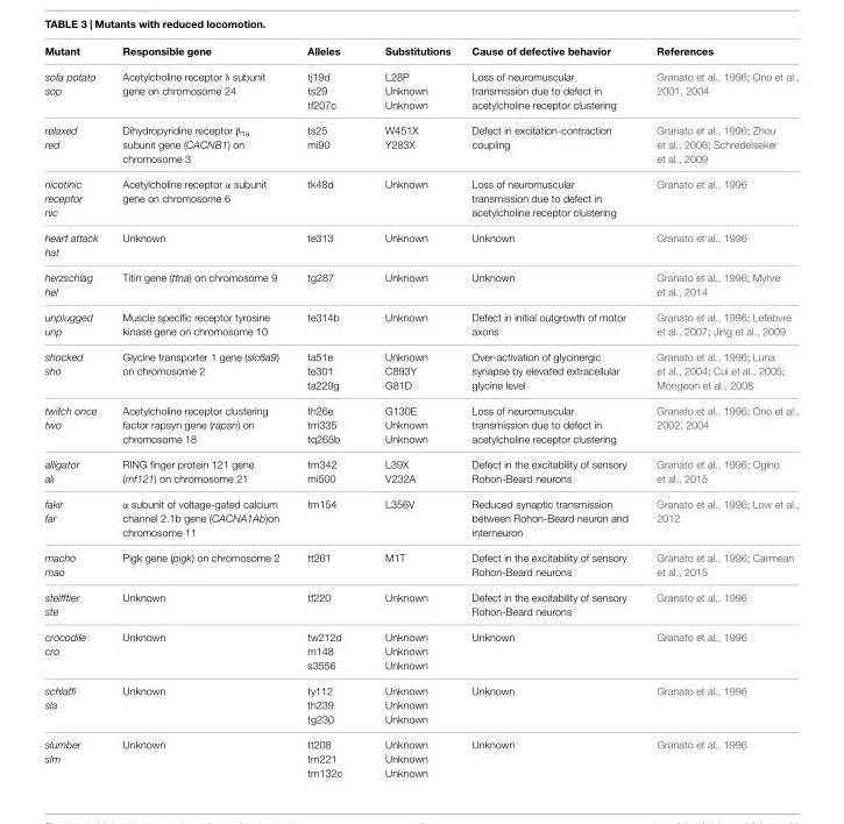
<table><thead><tr><td>Mutant</td><td>Responsible gene</td><td>Alleles</td><td>Substitutions</td><td>Cause of defective behavior</td><td>References</td></tr></thead><tbody><tr><td>sofa potato sop</td><td>Acetylcholine receptor δ subunit gene on chromosome 24</td><td>tj19d ts29 tf207c</td><td>L28P Unknown Unknown</td><td>Loss of neuromuscular transmission due to defect in acetylcholine receptor clustering</td><td>Granato et al., 1996; Ono et al., 2001, 2004</td></tr><tr><td>relaxed red</td><td>Dihydropyridine receptor β<sub>1a</sub> subunit gene (CACNB1) on chromosome 3</td><td>ts25 mi90</td><td>W451X Y283X</td><td>Defect in excitation-contraction coupling</td><td>Granato et al., 1996; Zhou et al., 2006; Schredelseker et al., 2009</td></tr><tr><td>nicotinic receptor nic</td><td>Acetylcholine receptor α subunit gene on chromosome 6</td><td>tk48d</td><td>Unknown</td><td>Loss of neuromuscular transmission due to defect in acetylcholine receptor clustering</td><td>Granato et al., 1996</td></tr><tr><td>heart attack hat</td><td>Unknown</td><td>te313</td><td>Unknown</td><td>Unknown</td><td>Granato et al., 1996</td></tr><tr><td>herzschlag hel</td><td>Titin gene (ttna) on chromosome 9</td><td>tg287</td><td>Unknown</td><td>Unknown</td><td>Granato et al., 1996; Myhre et al., 2014</td></tr><tr><td>unplugged unp</td><td>Muscle specific receptor tyrosine kinase gene on chromosome 10</td><td>te314b</td><td>Unknown</td><td>Defect in initial outgrowth of motor axons</td><td>Granato et al., 1996; Lefebvre et al., 2007; Jing et al., 2009</td></tr><tr><td>shocked sho</td><td>Glycine transporter 1 gene (slc6a9) on chromosome 2</td><td>ta51e te301 ta229g</td><td>Unknown C893Y G81D</td><td>Over-activation of glycinergic synapse by elevated extracellular glycine level</td><td>Granato et al., 1996; Luna et al., 2004; Cui et al., 2005; Mongeon et al., 2008</td></tr><tr><td>twitch once two</td><td>Acetylcholine receptor clustering factor rapsyn gene (rapsn) on chromosome 18</td><td>th26e tm335 tq265b</td><td>G130E Unknown Unknown</td><td>Loss of neuromuscular transmission due to defect in acetylcholine receptor clustering</td><td>Granato et al., 1996; Ono et al., 2002, 2004</td></tr><tr><td>alligator ali</td><td>RING finger protein 121 gene (rnf121) on chromosome 21</td><td>tm342 mi500</td><td>L39X V232A</td><td>Defect in the excitability of sensory Rohon-Beard neurons</td><td>Granato et al., 1996; Ogino et al., 2015</td></tr><tr><td>fakir far</td><td>α subunit of voltage-gated calcium channel 2.1b gene (CACNA1Ab)on chromosome 11</td><td>tm154</td><td>L356V</td><td>Reduced synaptic transmission between Rohon-Beard neuron and interneuron</td><td>Granato et al., 1996; Low et al., 2012</td></tr><tr><td>macho mao</td><td>Pigk gene (pigk) on chromosome 2</td><td>tt261</td><td>M1T</td><td>Defect in the excitability of sensory Rohon-Beard neurons</td><td>Granato et al., 1996; Carmean et al., 2015</td></tr><tr><td>steifftier ste</td><td>Unknown</td><td>tf220</td><td>Unknown</td><td>Defect in the excitability of sensory Rohon-Beard neurons</td><td>Granato et al., 1996</td></tr><tr><td>crocodile cro</td><td>Unknown</td><td>tw212d m148 s3556</td><td>Unknown Unknown Unknown</td><td>Unknown</td><td>Granato et al., 1996</td></tr><tr><td>schlaffi sla</td><td>Unknown</td><td>ty112 th239 tg230</td><td>Unknown Unknown Unknown</td><td>Unknown</td><td>Granato et al., 1996</td></tr><tr><td>slumber slm</td><td>Unknown</td><td>tt208 tm221 tm132c</td><td>Unknown Unknown Unknown</td><td>Unknown</td><td>Granato et al., 1996</td></tr></tbody></table>